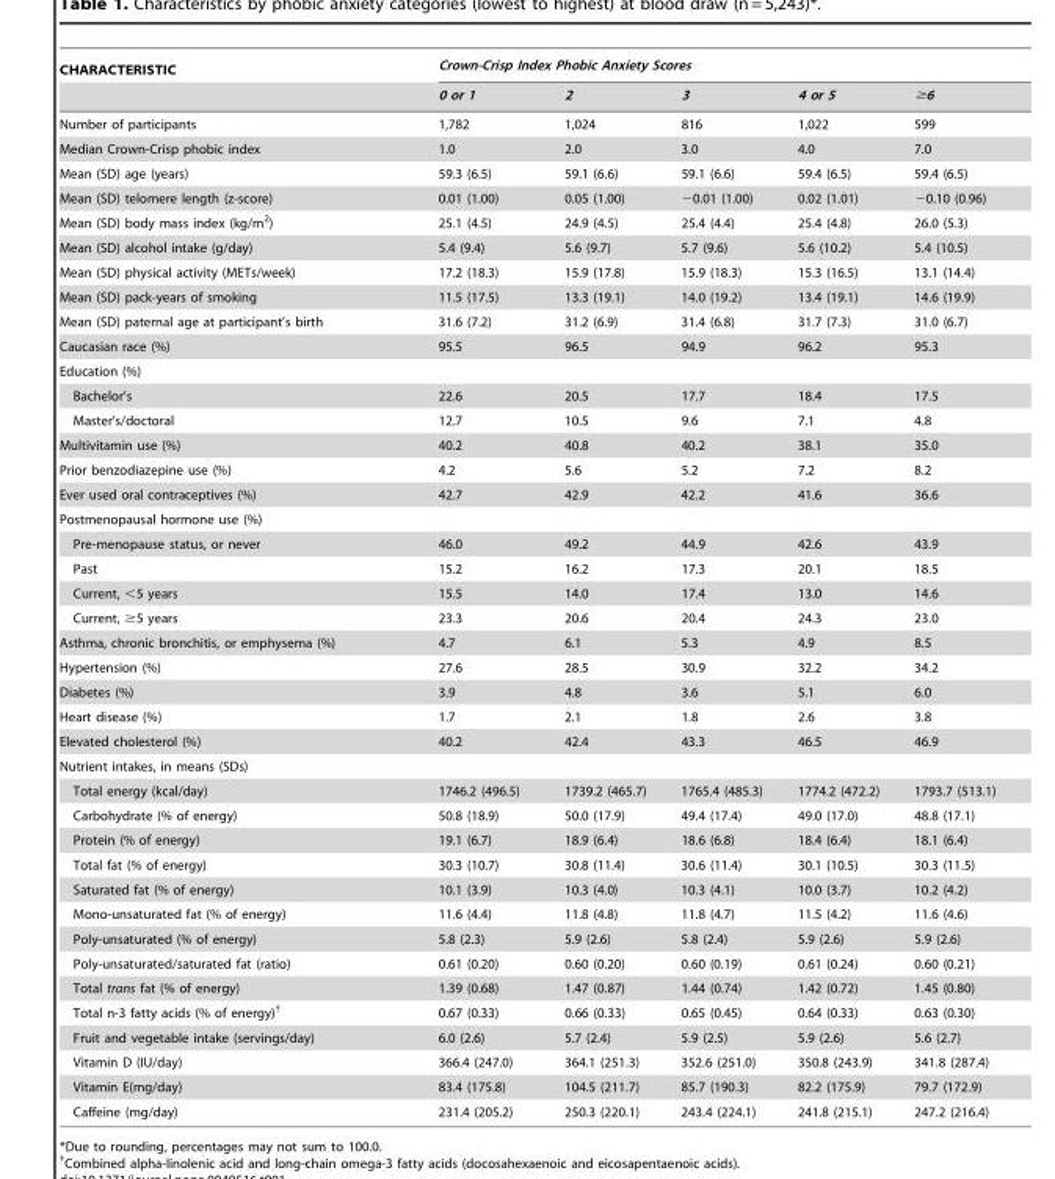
<table><thead><tr><td rowspan="2">CHARACTERISTIC</td><td colspan="5">Crown-Crisp Index Phobic Anxiety Scores</td></tr><tr><td>0 or 1</td><td>2</td><td>3</td><td>4 or 5</td><td>≥6</td></tr></thead><tbody><tr><td>Number of participants</td><td>1,782</td><td>1,024</td><td>816</td><td>1,022</td><td>599</td></tr><tr><td>Median Crown-Crisp phobic index</td><td>1.0</td><td>2.0</td><td>3.0</td><td>4.0</td><td>7.0</td></tr><tr><td>Mean (SD) age (years)</td><td>59.3 (6.5)</td><td>59.1 (6.6)</td><td>59.1 (6.6)</td><td>59.4 (6.5)</td><td>59.4 (6.5)</td></tr><tr><td>Mean (SD) telomere length (z-score)</td><td>0.01 (1.00)</td><td>0.05 (1.00)</td><td>−0.01 (1.00)</td><td>0.02 (1.01)</td><td>−0.10 (0.96)</td></tr><tr><td>Mean (SD) body mass index (kg/m<sup>2</sup>)</td><td>25.1 (4.5)</td><td>24.9 (4.5)</td><td>25.4 (4.4)</td><td>25.4 (4.8)</td><td>26.0 (5.3)</td></tr><tr><td>Mean (SD) alcohol intake (g/day)</td><td>5.4 (9.4)</td><td>5.6 (9.7)</td><td>5.7 (9.6)</td><td>5.6 (10.2)</td><td>5.4 (10.5)</td></tr><tr><td>Mean (SD) physical activity (METs/week)</td><td>17.2 (18.3)</td><td>15.9 (17.8)</td><td>15.9 (18.3)</td><td>15.3 (16.5)</td><td>13.1 (14.4)</td></tr><tr><td>Mean (SD) pack-years of smoking</td><td>11.5 (17.5)</td><td>13.3 (19.1)</td><td>14.0 (19.2)</td><td>13.4 (19.1)</td><td>14.6 (19.9)</td></tr><tr><td>Mean (SD) paternal age at participant’s birth</td><td>31.6 (7.2)</td><td>31.2 (6.9)</td><td>31.4 (6.8)</td><td>31.7 (7.3)</td><td>31.0 (6.7)</td></tr><tr><td>Caucasian race (%)</td><td>95.5</td><td>96.5</td><td>94.9</td><td>96.2</td><td>95.3</td></tr><tr><td colspan="6">Education (%)</td></tr><tr><td>Bachelor’s</td><td>22.6</td><td>20.5</td><td>17.7</td><td>18.4</td><td>17.5</td></tr><tr><td>Master’s/doctoral</td><td>12.7</td><td>10.5</td><td>9.6</td><td>7.1</td><td>4.8</td></tr><tr><td>Multivitamin use (%)</td><td>40.2</td><td>40.8</td><td>40.2</td><td>38.1</td><td>35.0</td></tr><tr><td>Prior benzodiazepine use (%)</td><td>4.2</td><td>5.6</td><td>5.2</td><td>7.2</td><td>8.2</td></tr><tr><td>Ever used oral contraceptives (%)</td><td>42.7</td><td>42.9</td><td>42.2</td><td>41.6</td><td>36.6</td></tr><tr><td colspan="6">Postmenopausal hormone use (%)</td></tr><tr><td>Pre-menopause status, or never</td><td>46.0</td><td>49.2</td><td>44.9</td><td>42.6</td><td>43.9</td></tr><tr><td>Past</td><td>15.2</td><td>16.2</td><td>17.3</td><td>20.1</td><td>18.5</td></tr><tr><td>Current, &lt;5 years</td><td>15.5</td><td>14.0</td><td>17.4</td><td>13.0</td><td>14.6</td></tr><tr><td>Current, ≥5 years</td><td>23.3</td><td>20.6</td><td>20.4</td><td>24.3</td><td>23.0</td></tr><tr><td>Asthma, chronic bronchitis, or emphysema (%)</td><td>4.7</td><td>6.1</td><td>5.3</td><td>4.9</td><td>8.5</td></tr><tr><td>Hypertension (%)</td><td>27.6</td><td>28.5</td><td>30.9</td><td>32.2</td><td>34.2</td></tr><tr><td>Diabetes (%)</td><td>3.9</td><td>4.8</td><td>3.6</td><td>5.1</td><td>6.0</td></tr><tr><td>Heart disease (%)</td><td>1.7</td><td>2.1</td><td>1.8</td><td>2.6</td><td>3.8</td></tr><tr><td>Elevated cholesterol (%)</td><td>40.2</td><td>42.4</td><td>43.3</td><td>46.5</td><td>46.9</td></tr><tr><td colspan="6">Nutrient intakes, in means (SDs)</td></tr><tr><td>Total energy (kcal/day)</td><td>1746.2 (496.5)</td><td>1739.2 (465.7)</td><td>1765.4 (485.3)</td><td>1774.2 (472.2)</td><td>1793.7 (513.1)</td></tr><tr><td>Carbohydrate (% of energy)</td><td>50.8 (18.9)</td><td>50.0 (17.9)</td><td>49.4 (17.4)</td><td>49.0 (17.0)</td><td>48.8 (17.1)</td></tr><tr><td>Protein (% of energy)</td><td>19.1 (6.7)</td><td>18.9 (6.4)</td><td>18.6 (6.8)</td><td>18.4 (6.4)</td><td>18.1 (6.4)</td></tr><tr><td>Total fat (% of energy)</td><td>30.3 (10.7)</td><td>30.8 (11.4)</td><td>30.6 (11.4)</td><td>30.1 (10.5)</td><td>30.3 (11.5)</td></tr><tr><td>Saturated fat (% of energy)</td><td>10.1 (3.9)</td><td>10.3 (4.0)</td><td>10.3 (4.1)</td><td>10.0 (3.7)</td><td>10.2 (4.2)</td></tr><tr><td>Mono-unsaturated fat (% of energy)</td><td>11.6 (4.4)</td><td>11.8 (4.8)</td><td>11.8 (4.7)</td><td>11.5 (4.2)</td><td>11.6 (4.6)</td></tr><tr><td>Poly-unsaturated (% of energy)</td><td>5.8 (2.3)</td><td>5.9 (2.6)</td><td>5.8 (2.4)</td><td>5.9 (2.6)</td><td>5.9 (2.6)</td></tr><tr><td>Poly-unsaturated/saturated fat (ratio)</td><td>0.61 (0.20)</td><td>0.60 (0.20)</td><td>0.60 (0.19)</td><td>0.61 (0.24)</td><td>0.60 (0.21)</td></tr><tr><td>Total trans fat (% of energy)</td><td>1.39 (0.68)</td><td>1.47 (0.87)</td><td>1.44 (0.74)</td><td>1.42 (0.72)</td><td>1.45 (0.80)</td></tr><tr><td>Total n-3 fatty acids (% of energy)†</td><td>0.67 (0.33)</td><td>0.66 (0.33)</td><td>0.65 (0.45)</td><td>0.64 (0.33)</td><td>0.63 (0.30)</td></tr><tr><td>Fruit and vegetable intake (servings/day)</td><td>6.0 (2.6)</td><td>5.7 (2.4)</td><td>5.9 (2.5)</td><td>5.9 (2.6)</td><td>5.6 (2.7)</td></tr><tr><td>Vitamin D (IU/day)</td><td>366.4 (247.0)</td><td>364.1 (251.3)</td><td>352.6 (251.0)</td><td>350.8 (243.9)</td><td>341.8 (287.4)</td></tr><tr><td>Vitamin E(mg/day)</td><td>83.4 (175.8)</td><td>104.5 (211.7)</td><td>85.7 (190.3)</td><td>82.2 (175.9)</td><td>79.7 (172.9)</td></tr><tr><td>Caffeine (mg/day)</td><td>231.4 (205.2)</td><td>250.3 (220.1)</td><td>243.4 (224.1)</td><td>241.8 (215.1)</td><td>247.2 (216.4)</td></tr></tbody></table>